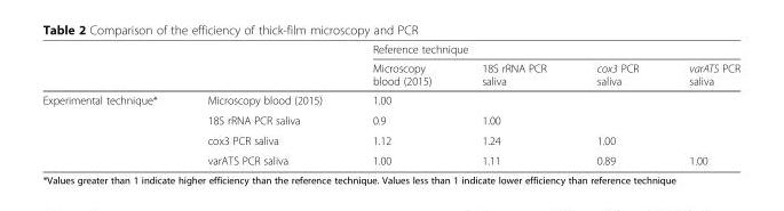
<table><thead><tr><td rowspan="2"></td><td rowspan="2"></td><td colspan="4">Reference technique</td></tr><tr><td>Microscopy blood (2015)</td><td>18S rRNA PCR saliva</td><td>cox3 PCR saliva</td><td>varATS PCR saliva</td></tr></thead><tbody><tr><td rowspan="4">Experimental technique*</td><td>Microscopy blood (2015)</td><td>1.00</td><td></td><td></td><td></td></tr><tr><td>18S rRNA PCR saliva</td><td>0.9</td><td>1.00</td><td></td><td></td></tr><tr><td>cox3 PCR saliva</td><td>1.12</td><td>1.24</td><td>1.00</td><td></td></tr><tr><td>varATS PCR saliva</td><td>1.00</td><td>1.11</td><td>0.89</td><td>1.00</td></tr></tbody></table>